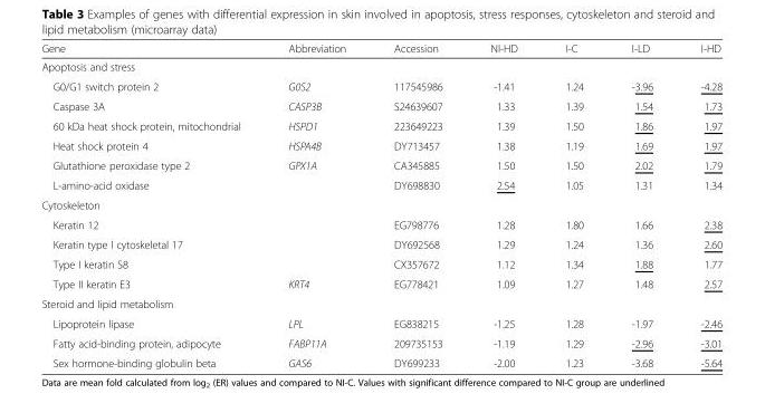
<table><thead><tr><td>Gene</td><td>Abbreviation</td><td>Accession</td><td>NI-HD</td><td>I-C</td><td>I-LD</td><td>I-HD</td></tr></thead><tbody><tr><td colspan="7">Apoptosis and stress</td></tr><tr><td>G0/G1 switch protein 2</td><td>G0S2</td><td>117545986</td><td>-1.41</td><td>1.24</td><td>-3.96</td><td>-4.28</td></tr><tr><td>Caspase 3A</td><td>CASP3B</td><td>S24639607</td><td>1.33</td><td>1.39</td><td>1.54</td><td>1.73</td></tr><tr><td>60 kDa heat shock protein, mitochondrial</td><td>HSPD1</td><td>223649223</td><td>1.39</td><td>1.50</td><td>1.86</td><td>1.97</td></tr><tr><td>Heat shock protein 4</td><td>HSPA4B</td><td>DY713457</td><td>1.38</td><td>1.19</td><td>1.69</td><td>1.97</td></tr><tr><td>Glutathione peroxidase type 2</td><td>GPX1A</td><td>CA345885</td><td>1.50</td><td>1.50</td><td>2.02</td><td>1.79</td></tr><tr><td>L-amino-acid oxidase</td><td></td><td>DY698830</td><td>2.54</td><td>1.05</td><td>1.31</td><td>1.34</td></tr><tr><td colspan="7">Cytoskeleton</td></tr><tr><td>Keratin 12</td><td></td><td>EG798776</td><td>1.28</td><td>1.80</td><td>1.66</td><td>2.38</td></tr><tr><td>Keratin type I cytoskeletal 17</td><td></td><td>DY692568</td><td>1.29</td><td>1.24</td><td>1.36</td><td>2.60</td></tr><tr><td>Type I keratin S8</td><td></td><td>CX357672</td><td>1.12</td><td>1.34</td><td>1.88</td><td>1.77</td></tr><tr><td>Type II keratin E3</td><td>KRT4</td><td>EG778421</td><td>1.09</td><td>1.27</td><td>1.48</td><td>2.57</td></tr><tr><td colspan="7">Steroid and lipid metabolism</td></tr><tr><td>Lipoprotein lipase</td><td>LPL</td><td>EG838215</td><td>-1.25</td><td>1.28</td><td>-1.97</td><td>-2.46</td></tr><tr><td>Fatty acid-binding protein, adipocyte</td><td>FABP11A</td><td>209735153</td><td>-1.19</td><td>1.29</td><td>-2.96</td><td>-3.01</td></tr><tr><td>Sex hormone-binding globulin beta</td><td>GAS6</td><td>DY699233</td><td>-2.00</td><td>1.23</td><td>-3.68</td><td>-5.64</td></tr></tbody></table>